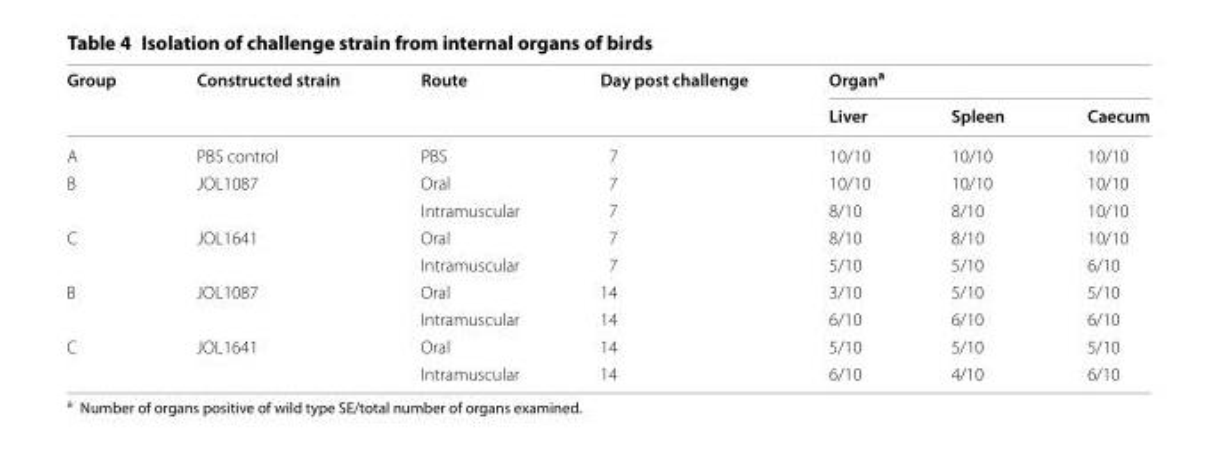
<table><thead><tr><td rowspan="2">Group</td><td rowspan="2">Constructed strain</td><td rowspan="2">Route</td><td rowspan="2">Day post challenge</td><td colspan="3">Organ<sup>a</sup></td></tr><tr><td>Liver</td><td>Spleen</td><td>Caecum</td></tr></thead><tbody><tr><td>A</td><td>PBS control</td><td>PBS</td><td>7</td><td>10/10</td><td>10/10</td><td>10/10</td></tr><tr><td rowspan="2">B</td><td rowspan="2">JOL1087</td><td>Oral</td><td>7</td><td>10/10</td><td>10/10</td><td>10/10</td></tr><tr><td>Intramuscular</td><td>7</td><td>8/10</td><td>8/10</td><td>10/10</td></tr><tr><td rowspan="2">C</td><td rowspan="2">JOL1641</td><td>Oral</td><td>7</td><td>8/10</td><td>8/10</td><td>10/10</td></tr><tr><td>Intramuscular</td><td>7</td><td>5/10</td><td>5/10</td><td>6/10</td></tr><tr><td rowspan="2">B</td><td rowspan="2">JOL1087</td><td>Oral</td><td>14</td><td>3/10</td><td>5/10</td><td>5/10</td></tr><tr><td>Intramuscular</td><td>14</td><td>6/10</td><td>6/10</td><td>6/10</td></tr><tr><td rowspan="2">C</td><td rowspan="2">JOL1641</td><td>Oral</td><td>14</td><td>5/10</td><td>5/10</td><td>5/10</td></tr><tr><td>Intramuscular</td><td>14</td><td>6/10</td><td>4/10</td><td>6/10</td></tr></tbody></table>